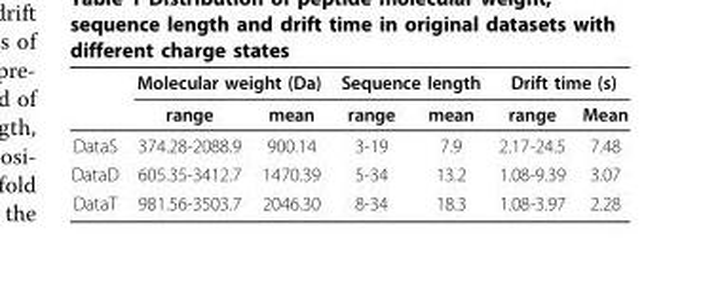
<table><thead><tr><td rowspan="2"></td><td colspan="2">Molecular weight (Da)</td><td colspan="2">Sequence length</td><td colspan="2">Drift time (s)</td></tr><tr><td>range</td><td>mean</td><td>range</td><td>mean</td><td>range</td><td>Mean</td></tr></thead><tbody><tr><td>DataS</td><td>374.28-2088.9</td><td>900.14</td><td>3-19</td><td>7.9</td><td>2.17-24.5</td><td>7.48</td></tr><tr><td>DataD</td><td>605.35-3412.7</td><td>1470.39</td><td>5-34</td><td>13.2</td><td>1.08-9.39</td><td>3.07</td></tr><tr><td>DataT</td><td>981.56-3503.7</td><td>2046.30</td><td>8-34</td><td>18.3</td><td>1.08-3.97</td><td>2.28</td></tr></tbody></table>